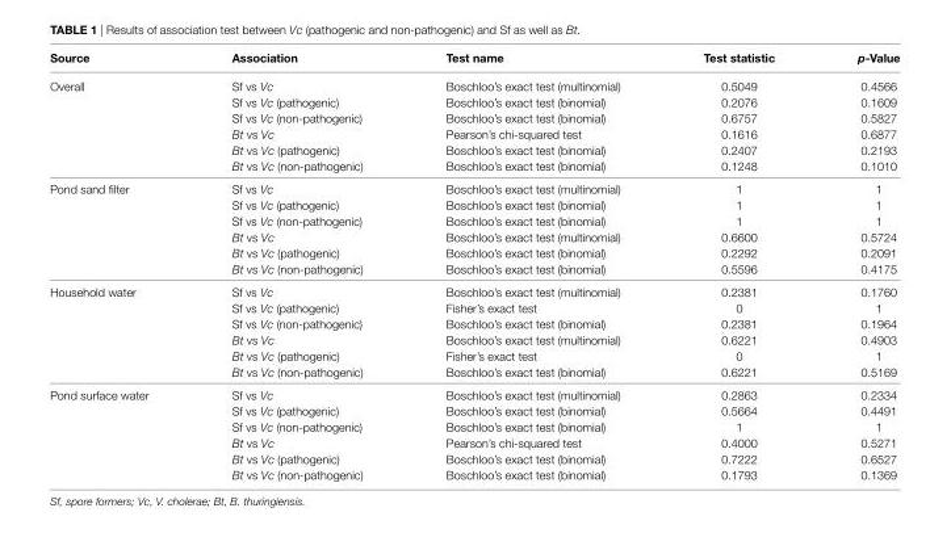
<table><thead><tr><td>source</td><td>association</td><td>Test name</td><td>Test statistic</td><td>p-Value</td></tr></thead><tbody><tr><td rowspan="6">Overall</td><td>Sf vs Vc</td><td>Boschloo’s exact test (multinomial)</td><td>0.5049</td><td>0.4566</td></tr><tr><td>Sf vs Vc (pathogenic)</td><td>Boschloo’s exact test (binomial)</td><td>0.2076</td><td>0.1609</td></tr><tr><td>Sf vs Vc (non-pathogenic)</td><td>Boschloo’s exact test (binomial)</td><td>0.6757</td><td>0.5827</td></tr><tr><td>Bt vs Vc</td><td>Pearson’s chi-squared test</td><td>0.1616</td><td>0.6877</td></tr><tr><td>Bt vs Vc (pathogenic)</td><td>Boschloo’s exact test (binomial)</td><td>0.2407</td><td>0.2193</td></tr><tr><td>Bt vs Vc (non-pathogenic)</td><td>Boschloo’s exact test (binomial)</td><td>0.1248</td><td>0.1010</td></tr><tr><td rowspan="6">Pond sand filter</td><td>Sf vs Vc</td><td>Boschloo’s exact test (multinomial)</td><td>1</td><td>1</td></tr><tr><td>Sf vs Vc (pathogenic)</td><td>Boschloo’s exact test (binomial)</td><td>1</td><td>1</td></tr><tr><td>Sf vs Vc (non-pathogenic)</td><td>Boschloo’s exact test (binomial)</td><td>1</td><td>1</td></tr><tr><td>Bt vs Vc</td><td>Boschloo’s exact test (multinomial)</td><td>0.6600</td><td>0.5724</td></tr><tr><td>Bt vs Vc (pathogenic)</td><td>Boschloo’s exact test (binomial)</td><td>0.2292</td><td>0.2091</td></tr><tr><td>Bt vs Vc (non-pathogenic)</td><td>Boschloo’s exact test (binomial)</td><td>0.5596</td><td>0.4175</td></tr><tr><td rowspan="6">Household water</td><td>Sf vs Vc</td><td>Boschloo’s exact test (multinomial)</td><td>0.2381</td><td>0.1760</td></tr><tr><td>Sf vs Vc (pathogenic)</td><td>Fisher’s exact test</td><td>0</td><td>1</td></tr><tr><td>Sf vs Vc (non-pathogenic)</td><td>Boschloo’s exact test (binomial)</td><td>0.2381</td><td>0.1964</td></tr><tr><td>Bt vs Vc</td><td>Boschloo’s exact test (multinomial)</td><td>0.6221</td><td>0.4903</td></tr><tr><td>Bt vs Vc (pathogenic)</td><td>Fisher’s exact test</td><td>0</td><td>1</td></tr><tr><td>Bt vs Vc (non-pathogenic)</td><td>Boschloo’s exact test (binomial)</td><td>0.6221</td><td>0.5169</td></tr><tr><td rowspan="6">Pond surface water</td><td>Sf vs Vc</td><td>Boschloo’s exact test (multinomial)</td><td>0.2863</td><td>0.2334</td></tr><tr><td>Sf vs Vc (pathogenic)</td><td>Boschloo’s exact test (binomial)</td><td>0.5664</td><td>0.4491</td></tr><tr><td>Sf vs Vc (non-pathogenic)</td><td>Boschloo’s exact test (binomial)</td><td>1</td><td>1</td></tr><tr><td>Bt vs Vc</td><td>Pearson’s chi-squared test</td><td>0.4000</td><td>0.5271</td></tr><tr><td>Bt vs Vc (pathogenic)</td><td>Boschloo’s exact test (binomial)</td><td>0.7222</td><td>0.6527</td></tr><tr><td>Bt vs Vc (non-pathogenic)</td><td>Boschloo’s exact test (binomial)</td><td>0.1793</td><td>0.1369</td></tr></tbody></table>